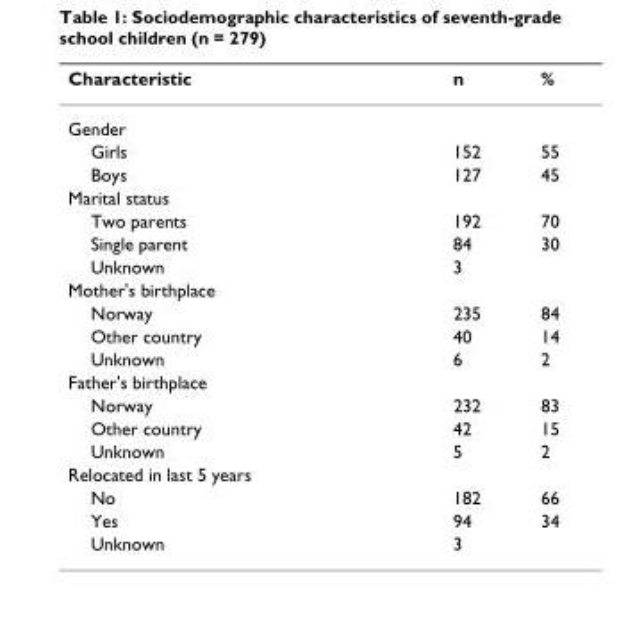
<table><thead><tr><td>Characteristic</td><td>n</td><td>%</td></tr></thead><tbody><tr><td colspan="3">Gender</td></tr><tr><td>Girls</td><td>152</td><td>55</td></tr><tr><td>Boys</td><td>127</td><td>45</td></tr><tr><td colspan="3">Marital status</td></tr><tr><td>Two parents</td><td>192</td><td>70</td></tr><tr><td>Single parent</td><td>84</td><td>30</td></tr><tr><td>Unknown</td><td>3</td><td></td></tr><tr><td colspan="3">Mother&#x27;s birthplace</td></tr><tr><td>Norway</td><td>235</td><td>84</td></tr><tr><td>Other country</td><td>40</td><td>14</td></tr><tr><td>Unknown</td><td>6</td><td>2</td></tr><tr><td colspan="3">Father&#x27;s birthplace</td></tr><tr><td>Norway</td><td>232</td><td>83</td></tr><tr><td>Other country</td><td>42</td><td>15</td></tr><tr><td>Unknown</td><td>5</td><td>2</td></tr><tr><td colspan="3">Relocated in last 5 years</td></tr><tr><td>No</td><td>182</td><td>66</td></tr><tr><td>Yes</td><td>94</td><td>34</td></tr><tr><td>Unknown</td><td>3</td><td></td></tr></tbody></table>